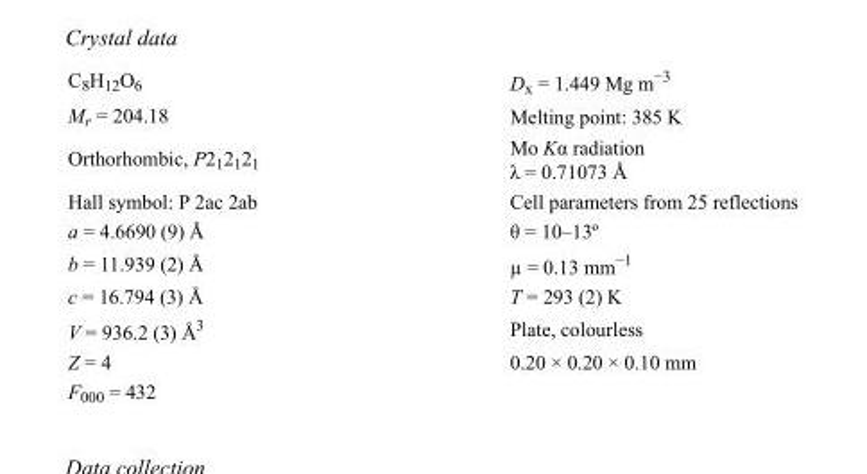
<table><tbody><tr><td>C<sub>8</sub>H<sub>12</sub>O<sub>6</sub></td><td>D<sub>x</sub> = 1.449 Mg m<sup>−3</sup></td></tr><tr><td>M<sub>r</sub> = 204.18</td><td>Melting point: 385 K</td></tr><tr><td>Orthorhombic, P2<sub>1</sub>2<sub>1</sub>2<sub>1</sub></td><td>Mo Kα radiation λ = 0.71073 Å</td></tr><tr><td>Hall symbol: P 2ac 2ab</td><td>Cell parameters from 25 reflections</td></tr><tr><td>a = 4.6690 (9) Å</td><td>θ = 10–13º</td></tr><tr><td>b = 11.939 (2) Å</td><td>µ = 0.13 mm<sup>−1</sup></td></tr><tr><td>c = 16.794 (3) Å</td><td>T = 293 (2) K</td></tr><tr><td>V = 936.2 (3) Å<sup>3</sup></td><td>Plate, colourless</td></tr><tr><td>Z = 4</td><td>0.20 × 0.20 × 0.10 mm</td></tr><tr><td>F<sub>000</sub> = 432</td><td></td></tr></tbody></table>